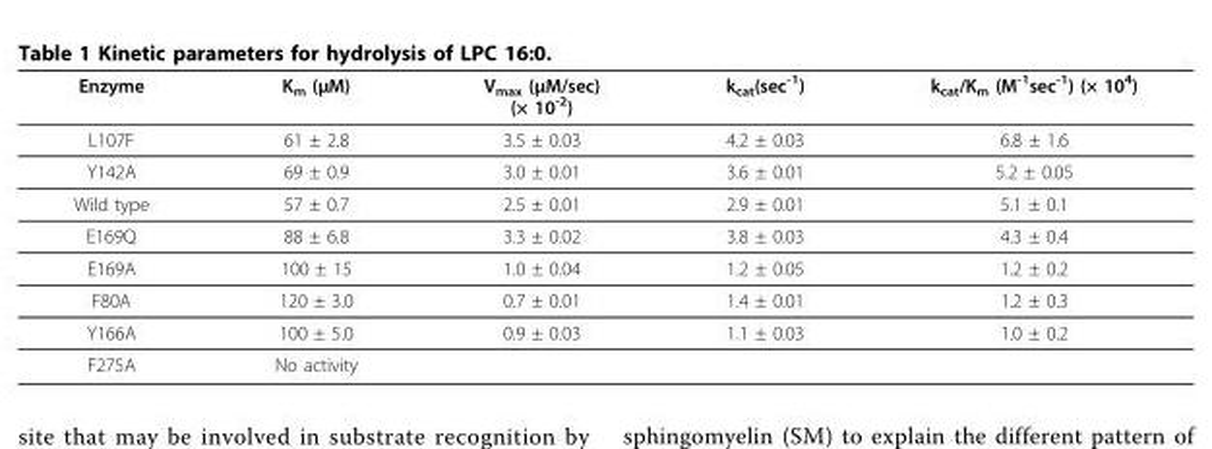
<table><thead><tr><td>Enzyme</td><td>K<sub>m</sub> (μM)</td><td>V<sub>max</sub> (μM/sec) (× 10<sup>-2</sup>)</td><td>k<sub>cat</sub>(sec<sup>-1</sup>)</td><td>k<sub>cat</sub>/K<sub>m</sub> (M<sup>-1</sup>sec<sup>-1</sup>) (× 10<sup>4</sup>)</td></tr></thead><tbody><tr><td>L107F</td><td>61 ± 2.8</td><td>3.5 ± 0.03</td><td>4.2 ± 0.03</td><td>6.8 ± 1.6</td></tr><tr><td>Y142A</td><td>69 ± 0.9</td><td>3.0 ± 0.01</td><td>3.6 ± 0.01</td><td>5.2 ± 0.05</td></tr><tr><td>Wild type</td><td>57 ± 0.7</td><td>2.5 ± 0.01</td><td>2.9 ± 0.01</td><td>5.1 ± 0.1</td></tr><tr><td>E169Q</td><td>88 ± 6.8</td><td>3.3 ± 0.02</td><td>3.8 ± 0.03</td><td>4.3 ± 0.4</td></tr><tr><td>E169A</td><td>100 ± 15</td><td>1.0 ± 0.04</td><td>1.2 ± 0.05</td><td>1.2 ± 0.2</td></tr><tr><td>F80A</td><td>120 ± 3.0</td><td>0.7 ± 0.01</td><td>1.4 ± 0.01</td><td>1.2 ± 0.3</td></tr><tr><td>Y166A</td><td>100 ± 5.0</td><td>0.9 ± 0.03</td><td>1.1 ± 0.03</td><td>1.0 ± 0.2</td></tr><tr><td>F275A</td><td>No activity</td><td></td><td></td><td></td></tr></tbody></table>